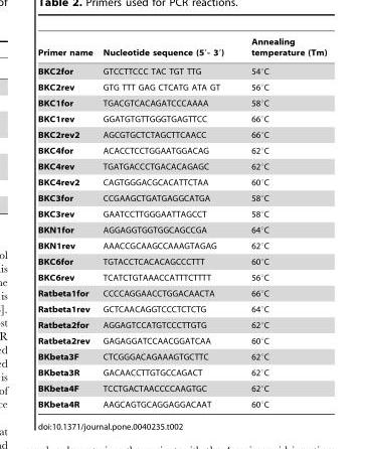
<table><thead><tr><td>Primer name</td><td>Nucleotide sequence (5′- 3′)</td><td>Annealing temperature (Tm)</td></tr></thead><tbody><tr><td>BKC2for</td><td>GTCCTTCCC TAC TGT TTG</td><td>54°C</td></tr><tr><td>BKC2rev</td><td>GTG TTT GAG CTCATG ATA GT</td><td>56°C</td></tr><tr><td>BKC1for</td><td>TGACGTCACAGATCCCAAAA</td><td>58°C</td></tr><tr><td>BKC1rev</td><td>GGATGTGTTGGGTGAGTTCC</td><td>66°C</td></tr><tr><td>BKC2rev2</td><td>AGCGTGCTCTAGCTTCAACC</td><td>66°C</td></tr><tr><td>BKC4for</td><td>ACACCTCCTGGAATGGACAG</td><td>62°C</td></tr><tr><td>BKC4rev</td><td>TGATGACCCTGACACAGAGC</td><td>62°C</td></tr><tr><td>BKC4rev2</td><td>CAGTGGGACGCACATTCTAA</td><td>60°C</td></tr><tr><td>BKC3for</td><td>CCGAAGCTGATGAGGCATGA</td><td>58°C</td></tr><tr><td>BKC3rev</td><td>GAATCCTTGGGAATTAGCCT</td><td>58°C</td></tr><tr><td>BKN1for</td><td>AGGAGGTGGTGGCAGCCGA</td><td>64°C</td></tr><tr><td>BKN1rev</td><td>AAACCGCAAGCCAAAGTAGAG</td><td>62°C</td></tr><tr><td>BKC6for</td><td>TGTACCTCACACAGCCCTTT</td><td>60°C</td></tr><tr><td>BKC6rev</td><td>TCATCTGTAAACCATTTCTTTT</td><td>56°C</td></tr><tr><td>Ratbeta1for</td><td>CCCCAGGAACCTGGACAACTA</td><td>66°C</td></tr><tr><td>Ratbeta1rev</td><td>GCTCAACAGGTCCCTCTCTG</td><td>64°C</td></tr><tr><td>Ratbeta2for</td><td>AGGAGTCCATGTCCCTTGTG</td><td>62°C</td></tr><tr><td>Ratbeta2rev</td><td>GAGAGGATCCAACGGATCAA</td><td>60°C</td></tr><tr><td>BKbeta3F</td><td>CTCGGGACAGAAAGTGCTTC</td><td>62°C</td></tr><tr><td>BKbeta3R</td><td>GACAACCTTGTGCCAGACT</td><td>62°C</td></tr><tr><td>BKbeta4F</td><td>TCCTGACTAACCCCAAGTGC</td><td>62°C</td></tr><tr><td>BKbeta4R</td><td>AAGCAGTGCAGGAGGACAAT</td><td>60°C</td></tr></tbody></table>